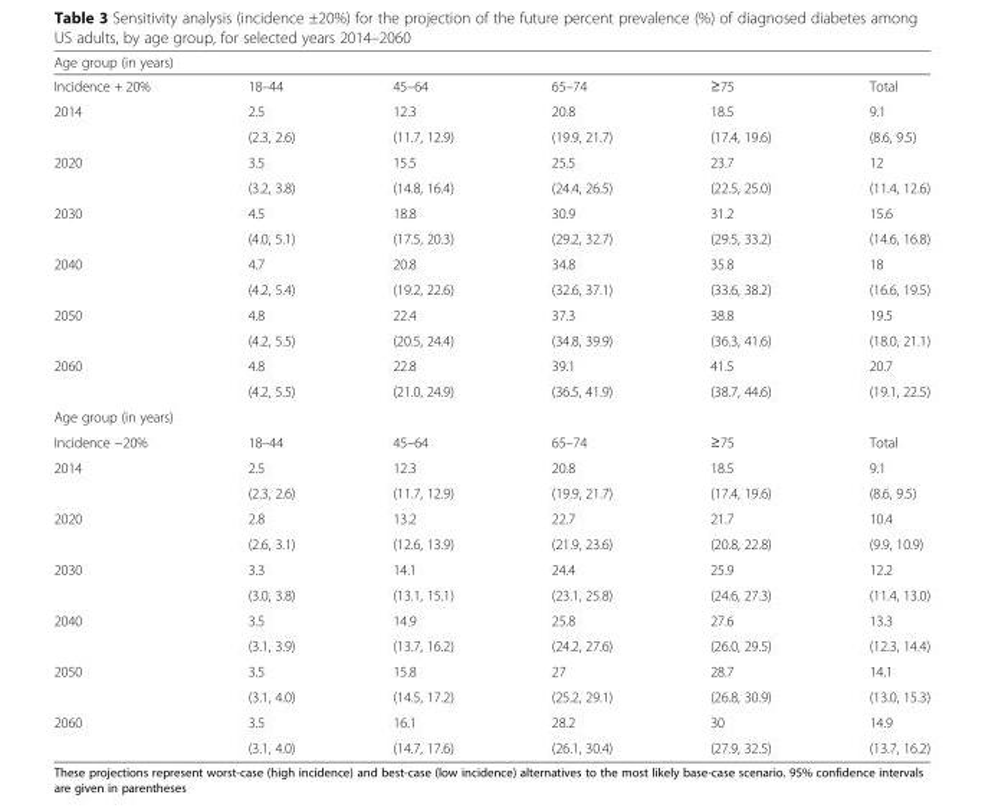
<table><thead><tr><td colspan="6">Age group (in years)</td></tr><tr><td>Incidence + 20%</td><td>18–44</td><td>45–64</td><td>65–74</td><td>≥75</td><td>Total</td></tr></thead><tbody><tr><td rowspan="2">2014</td><td>2.5</td><td>12.3</td><td>20.8</td><td>18.5</td><td>9.1</td></tr><tr><td>(2.3, 2.6)</td><td>(11.7, 12.9)</td><td>(19.9, 21.7)</td><td>(17.4, 19.6)</td><td>(8.6, 9.5)</td></tr><tr><td rowspan="2">2020</td><td>3.5</td><td>15.5</td><td>25.5</td><td>23.7</td><td>12</td></tr><tr><td>(3.2, 3.8)</td><td>(14.8, 16.4)</td><td>(24.4, 26.5)</td><td>(22.5, 25.0)</td><td>(11.4, 12.6)</td></tr><tr><td rowspan="2">2030</td><td>4.5</td><td>18.8</td><td>30.9</td><td>31.2</td><td>15.6</td></tr><tr><td>(4.0, 5.1)</td><td>(17.5, 20.3)</td><td>(29.2, 32.7)</td><td>(29.5, 33.2)</td><td>(14.6, 16.8)</td></tr><tr><td rowspan="2">2040</td><td>4.7</td><td>20.8</td><td>34.8</td><td>35.8</td><td>18</td></tr><tr><td>(4.2, 5.4)</td><td>(19.2, 22.6)</td><td>(32.6, 37.1)</td><td>(33.6, 38.2)</td><td>(16.6, 19.5)</td></tr><tr><td rowspan="2">2050</td><td>4.8</td><td>22.4</td><td>37.3</td><td>38.8</td><td>19.5</td></tr><tr><td>(4.2, 5.5)</td><td>(20.5, 24.4)</td><td>(34.8, 39.9)</td><td>(36.3, 41.6)</td><td>(18.0, 21.1)</td></tr><tr><td rowspan="2">2060</td><td>4.8</td><td>22.8</td><td>39.1</td><td>41.5</td><td>20.7</td></tr><tr><td>(4.2, 5.5)</td><td>(21.0, 24.9)</td><td>(36.5, 41.9)</td><td>(38.7, 44.6)</td><td>(19.1, 22.5)</td></tr><tr><td colspan="6">Age group (in years)</td></tr><tr><td>Incidence −20%</td><td>18–44</td><td>45–64</td><td>65–74</td><td>≥75</td><td>Total</td></tr><tr><td rowspan="2">2014</td><td>2.5</td><td>12.3</td><td>20.8</td><td>18.5</td><td>9.1</td></tr><tr><td>(2.3, 2.6)</td><td>(11.7, 12.9)</td><td>(19.9, 21.7)</td><td>(17.4, 19.6)</td><td>(8.6, 9.5)</td></tr><tr><td rowspan="2">2020</td><td>2.8</td><td>13.2</td><td>22.7</td><td>21.7</td><td>10.4</td></tr><tr><td>(2.6, 3.1)</td><td>(12.6, 13.9)</td><td>(21.9, 23.6)</td><td>(20.8, 22.8)</td><td>(9.9, 10.9)</td></tr><tr><td rowspan="2">2030</td><td>3.3</td><td>14.1</td><td>24.4</td><td>25.9</td><td>12.2</td></tr><tr><td>(3.0, 3.8)</td><td>(13.1, 15.1)</td><td>(23.1, 25.8)</td><td>(24.6, 27.3)</td><td>(11.4, 13.0)</td></tr><tr><td rowspan="2">2040</td><td>3.5</td><td>14.9</td><td>25.8</td><td>27.6</td><td>13.3</td></tr><tr><td>(3.1, 3.9)</td><td>(13.7, 16.2)</td><td>(24.2, 27.6)</td><td>(26.0, 29.5)</td><td>(12.3, 14.4)</td></tr><tr><td rowspan="2">2050</td><td>3.5</td><td>15.8</td><td>27</td><td>28.7</td><td>14.1</td></tr><tr><td>(3.1, 4.0)</td><td>(14.5, 17.2)</td><td>(25.2, 29.1)</td><td>(26.8, 30.9)</td><td>(13.0, 15.3)</td></tr><tr><td rowspan="2">2060</td><td>3.5</td><td>16.1</td><td>28.2</td><td>30</td><td>14.9</td></tr><tr><td>(3.1, 4.0)</td><td>(14.7, 17.6)</td><td>(26.1, 30.4)</td><td>(27.9, 32.5)</td><td>(13.7, 16.2)</td></tr></tbody></table>